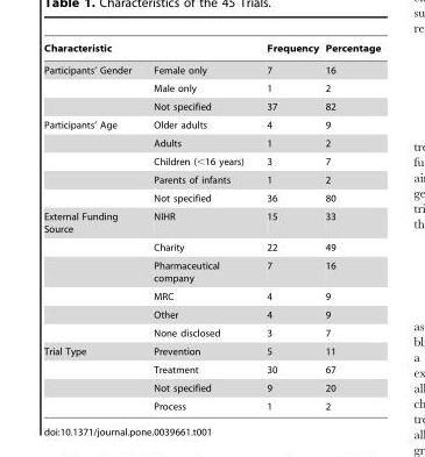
<table><thead><tr><td>Characteristic</td><td></td><td>Frequency</td><td>Percentage</td></tr></thead><tbody><tr><td rowspan="3">Participants’ Gender</td><td>Female only</td><td>7</td><td>16</td></tr><tr><td>Male only</td><td>1</td><td>2</td></tr><tr><td>Not specified</td><td>37</td><td>82</td></tr><tr><td rowspan="5">Participants’ Age</td><td>Older adults</td><td>4</td><td>9</td></tr><tr><td>Adults</td><td>1</td><td>2</td></tr><tr><td>Children (&lt;16 years)</td><td>3</td><td>7</td></tr><tr><td>Parents of infants</td><td>1</td><td>2</td></tr><tr><td>Not specified</td><td>36</td><td>80</td></tr><tr><td rowspan="6">External Funding Source</td><td>NIHR</td><td>15</td><td>33</td></tr><tr><td>Charity</td><td>22</td><td>49</td></tr><tr><td>Pharmaceutical company</td><td>7</td><td>16</td></tr><tr><td>MRC</td><td>4</td><td>9</td></tr><tr><td>Other</td><td>4</td><td>9</td></tr><tr><td>None disclosed</td><td>3</td><td>7</td></tr><tr><td rowspan="4">Trial Type</td><td>Prevention</td><td>5</td><td>11</td></tr><tr><td>Treatment</td><td>30</td><td>67</td></tr><tr><td>Not specified</td><td>9</td><td>20</td></tr><tr><td>Process</td><td>1</td><td>2</td></tr></tbody></table>